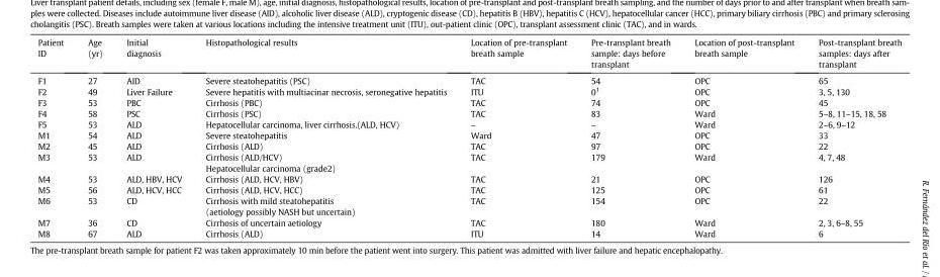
<table><thead><tr><td>Patient ID</td><td>Age (yr)</td><td>Initial diagnosis</td><td>Histopathological results</td><td>Location of pre-transplant breath sample</td><td>Pre-transplant breath sample: days before transplant</td><td>Location of post-transplant breath sample</td><td>Post-transplant breath samples: days after transplant</td></tr></thead><tbody><tr><td>F1</td><td>27</td><td>AID</td><td>Severe steatohepatitis (PSC)</td><td>TAC</td><td>54</td><td>OPC</td><td>65</td></tr><tr><td>F2</td><td>49</td><td>Liver Failure</td><td>Severe hepatitis with multiacinar necrosis, seronegative hepatitis</td><td>ITU</td><td>0<sup>1</sup></td><td>OPC</td><td>3, 5, 130</td></tr><tr><td>F3</td><td>53</td><td>PBC</td><td>Cirrhosis (PBC)</td><td>TAC</td><td>74</td><td>OPC</td><td>45</td></tr><tr><td>F4</td><td>58</td><td>PSC</td><td>Cirrhosis (PSC)</td><td>TAC</td><td>83</td><td>Ward</td><td>5–8, 11–15, 18, 58</td></tr><tr><td>F5</td><td>53</td><td>ALD</td><td>Hepatocellular carcinoma, liver cirrhosis.(ALD, HCV)</td><td>–</td><td>–</td><td>Ward</td><td>2–6, 9–12</td></tr><tr><td>M1</td><td>54</td><td>ALD</td><td>Severe steatohepatitis</td><td>Ward</td><td>47</td><td>OPC</td><td>33</td></tr><tr><td>M2</td><td>45</td><td>ALD</td><td>Cirrhosis (ALD)</td><td>TAC</td><td>97</td><td>OPC</td><td>22</td></tr><tr><td>M3</td><td>53</td><td>ALD</td><td>Cirrhosis (ALD/HCV) Hepatocellular carcinoma (grade2)</td><td>TAC</td><td>179</td><td>Ward</td><td>4, 7, 48</td></tr><tr><td>M4</td><td>53</td><td>ALD, HBV, HCV</td><td>Cirrhosis (ALD, HCV, HBV)</td><td>TAC</td><td>21</td><td>OPC</td><td>126</td></tr><tr><td>M5</td><td>56</td><td>ALD, HCV, HCC</td><td>Cirrhosis (ALD, HCV, HCC)</td><td>TAC</td><td>125</td><td>OPC</td><td>61</td></tr><tr><td>M6</td><td>53</td><td>CD</td><td>Cirrhosis with mild steatohepatitis (aetiology possibly NASH but uncertain)</td><td>TAC</td><td>154</td><td>OPC</td><td>22</td></tr><tr><td>M7</td><td>36</td><td>CD</td><td>Cirrhosis of uncertain aetiology</td><td>TAC</td><td>180</td><td>Ward</td><td>2, 3, 6–8, 55</td></tr><tr><td>M8</td><td>67</td><td>ALD</td><td>Cirrhosis (ALD)</td><td>ITU</td><td>14</td><td>Ward</td><td>6</td></tr></tbody></table>